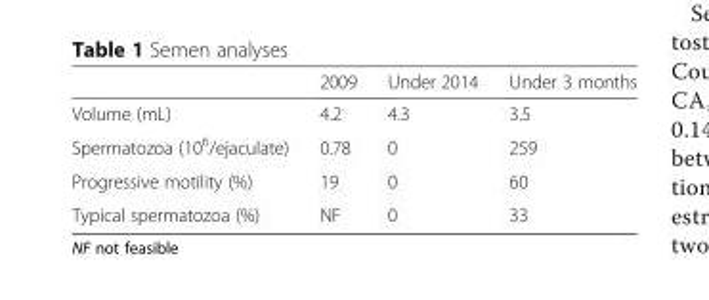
<table><thead><tr><td></td><td>2009</td><td>Under 2014</td><td>Under 3 months</td></tr></thead><tbody><tr><td>Volume (mL)</td><td>4.2</td><td>4.3</td><td>3.5</td></tr><tr><td>Spermatozoa (10<sup>6</sup>/ejaculate)</td><td>0.78</td><td>0</td><td>259</td></tr><tr><td>Progressive motility (%)</td><td>19</td><td>0</td><td>60</td></tr><tr><td>Typical spermatozoa (%)</td><td>NF</td><td>0</td><td>33</td></tr></tbody></table>